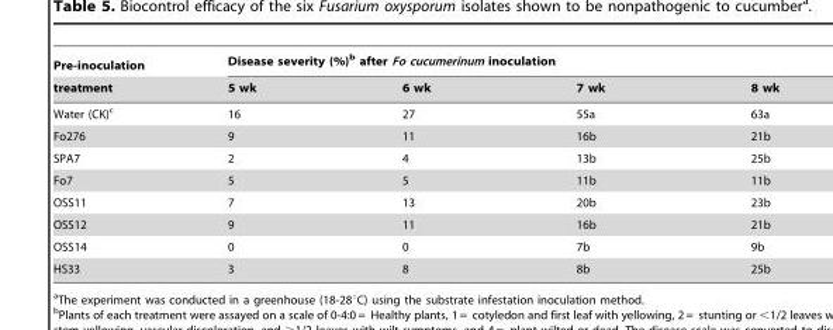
<table><thead><tr><td rowspan="2">Pre-inoculation treatment</td><td colspan="4">Disease severity (%)<sup>b</sup> after Fo cucumerinum inoculation</td></tr><tr><td>5 wk</td><td>6 wk</td><td>7 wk</td><td>8 wk</td></tr></thead><tbody><tr><td>Water (CK)<sup>c</sup></td><td>16</td><td>27</td><td>55a</td><td>63a</td></tr><tr><td>Fo276</td><td>9</td><td>11</td><td>16b</td><td>21b</td></tr><tr><td>SPA7</td><td>2</td><td>4</td><td>13b</td><td>25b</td></tr><tr><td>Fo7</td><td>5</td><td>5</td><td>11b</td><td>11b</td></tr><tr><td>OSS11</td><td>7</td><td>13</td><td>20b</td><td>23b</td></tr><tr><td>OSS12</td><td>9</td><td>11</td><td>16b</td><td>21b</td></tr><tr><td>OSS14</td><td>0</td><td>0</td><td>7b</td><td>9b</td></tr><tr><td>HS33</td><td>3</td><td>8</td><td>8b</td><td>25b</td></tr></tbody></table>